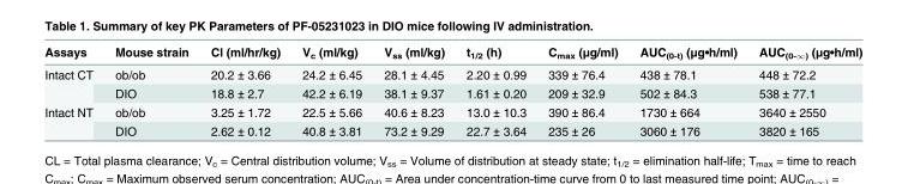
<table><thead><tr><td>Assays</td><td>Mouse strain</td><td>Cl (ml/hr/kg)</td><td>V<sub>c</sub> (ml/kg)</td><td>V<sub>ss</sub> (ml/kg)</td><td>t<sub>1/2</sub> (h)</td><td>C<sub>max</sub> (μg/ml)</td><td>AUC<sub>(0-t)</sub> (μg•h/ml)</td><td>AUC<sub>(0-∞)</sub> (μg•h/ml)</td></tr></thead><tbody><tr><td rowspan="2">Intact CT</td><td>ob/ob</td><td>20.2 ± 3.66</td><td>24.2 ± 6.45</td><td>28.1 ± 4.45</td><td>2.20 ± 0.99</td><td>339 ± 76.4</td><td>438 ± 78.1</td><td>448 ± 72.2</td></tr><tr><td>DIO</td><td>18.8 ± 2.7</td><td>42.2 ± 6.19</td><td>38.1 ± 9.37</td><td>1.61 ± 0.20</td><td>209 ± 32.9</td><td>502 ± 84.3</td><td>538 ± 77.1</td></tr><tr><td rowspan="2">Intact NT</td><td>ob/ob</td><td>3.25 ± 1.72</td><td>22.5 ± 5.66</td><td>40.6 ± 8.23</td><td>13.0 ± 10.3</td><td>390 ± 86.4</td><td>1730 ± 664</td><td>3640 ± 2550</td></tr><tr><td>DIO</td><td>2.62 ± 0.12</td><td>40.8 ± 3.81</td><td>73.2 ± 9.29</td><td>22.7 ± 3.64</td><td>235 ± 26</td><td>3060 ± 176</td><td>3820 ± 165</td></tr></tbody></table>